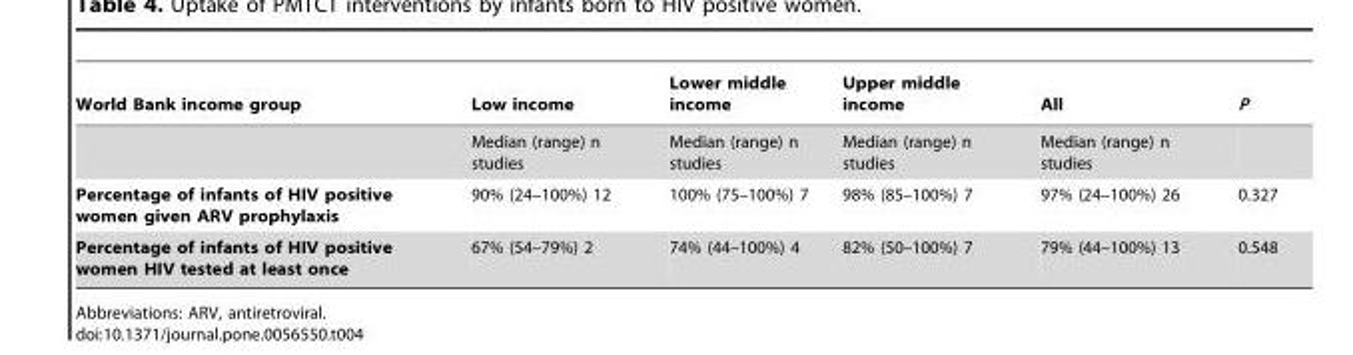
<table><thead><tr><td>World Bank income group</td><td>Low income</td><td>Lower middle income</td><td>Upper middle income</td><td>All</td><td>P</td></tr></thead><tbody><tr><td></td><td>Median (range) n studies</td><td>Median (range) n studies</td><td>Median (range) n studies</td><td>Median (range) n studies</td><td></td></tr><tr><td>Percentage of infants of HIV positive women given ARV prophylaxis</td><td>90% (24–100%) 12</td><td>100% (75–100%) 7</td><td>98% (85–100%) 7</td><td>97% (24–100%) 26</td><td>0.327</td></tr><tr><td>Percentage of infants of HIV positive women HIV tested at least once</td><td>67% (54–79%) 2</td><td>74% (44–100%) 4</td><td>82% (50–100%) 7</td><td>79% (44–100%) 13</td><td>0.548</td></tr></tbody></table>